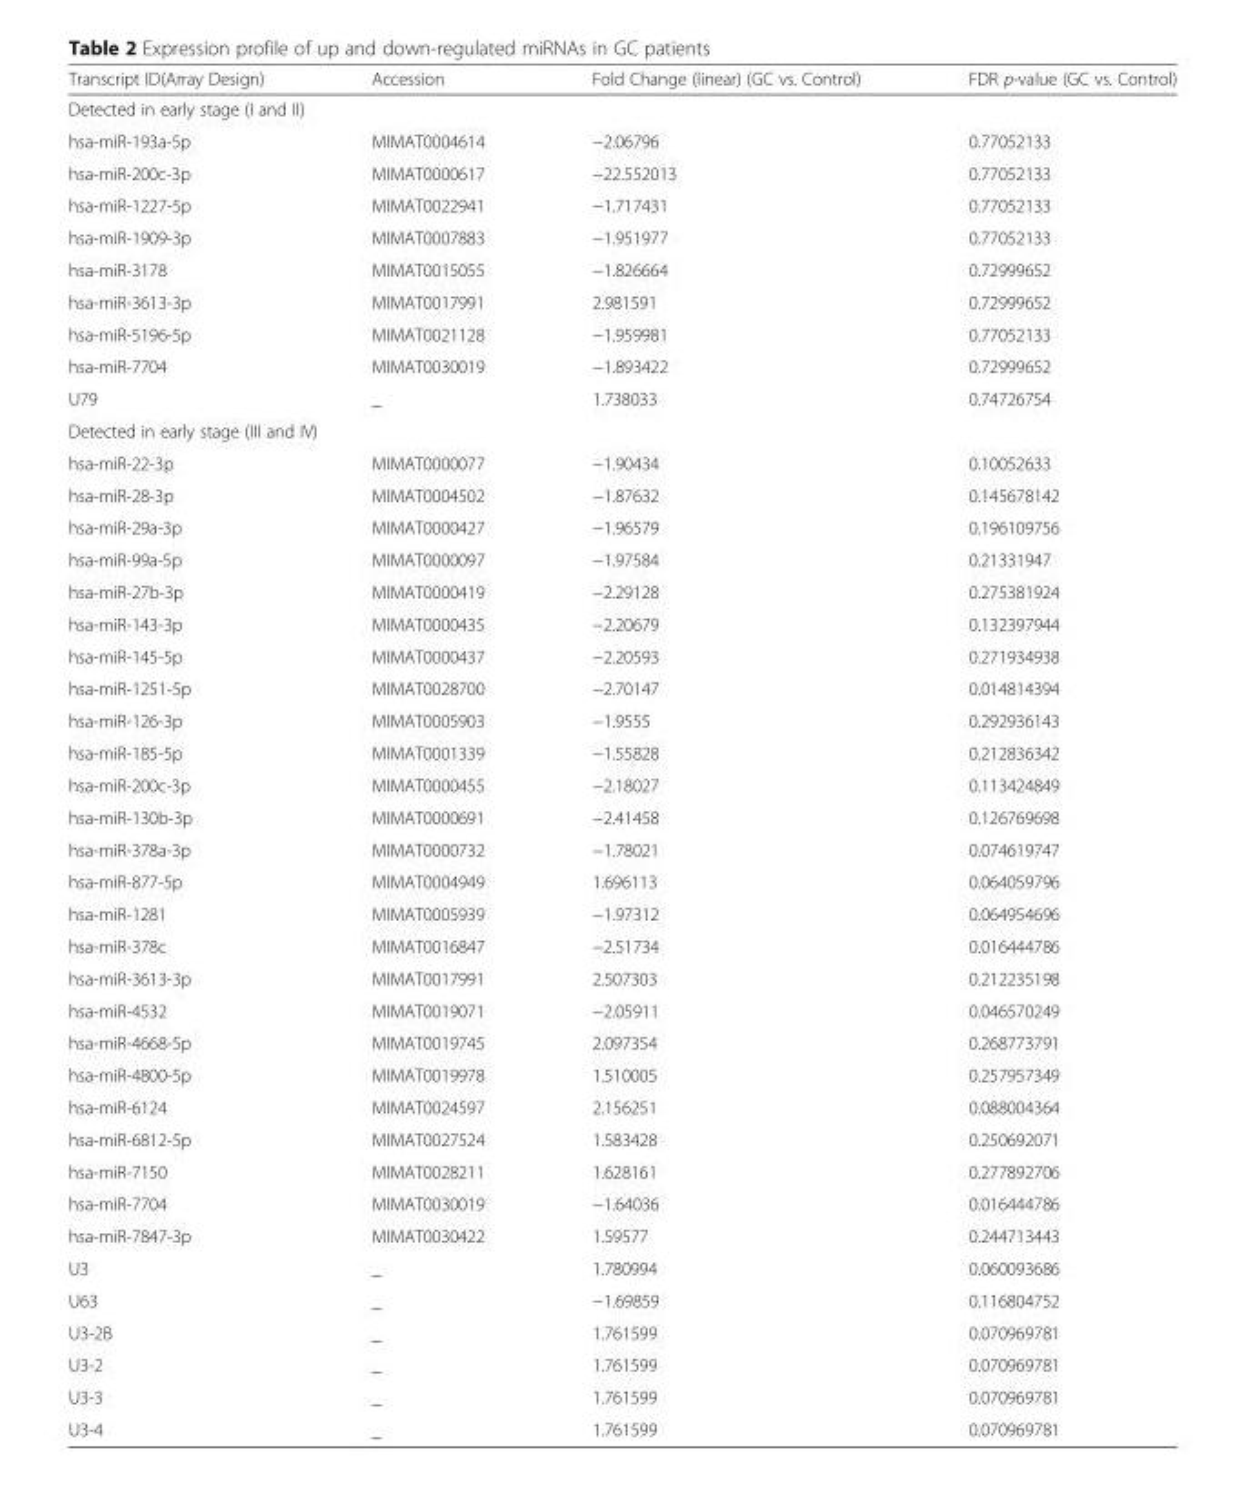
<table><thead><tr><td>Transcript ID(Array Design)</td><td>Accession</td><td>Fold Change (linear) (GC vs. Control)</td><td>FDR p-value (GC vs. Control)</td></tr></thead><tbody><tr><td colspan="4">Detected in early stage (I and II)</td></tr><tr><td>hsa-miR-193a-5p</td><td>MIMAT0004614</td><td>−2.06796</td><td>0.77052133</td></tr><tr><td>hsa-miR-200c-3p</td><td>MIMAT0000617</td><td>−22.552013</td><td>0.77052133</td></tr><tr><td>hsa-miR-1227-5p</td><td>MIMAT0022941</td><td>−1.717431</td><td>0.77052133</td></tr><tr><td>hsa-miR-1909-3p</td><td>MIMAT0007883</td><td>−1.951977</td><td>0.77052133</td></tr><tr><td>hsa-miR-3178</td><td>MIMAT0015055</td><td>−1.826664</td><td>0.72999652</td></tr><tr><td>hsa-miR-3613-3p</td><td>MIMAT0017991</td><td>2.981591</td><td>0.72999652</td></tr><tr><td>hsa-miR-5196-5p</td><td>MIMAT0021128</td><td>−1.959981</td><td>0.77052133</td></tr><tr><td>hsa-miR-7704</td><td>MIMAT0030019</td><td>−1.893422</td><td>0.72999652</td></tr><tr><td>U79</td><td>_</td><td>1.738033</td><td>0.74726754</td></tr><tr><td colspan="4">Detected in early stage (III and IV)</td></tr><tr><td>hsa-miR-22-3p</td><td>MIMAT0000077</td><td>−1.90434</td><td>0.10052633</td></tr><tr><td>hsa-miR-28-3p</td><td>MIMAT0004502</td><td>−1.87632</td><td>0.145678142</td></tr><tr><td>hsa-miR-29a-3p</td><td>MIMAT0000427</td><td>−1.96579</td><td>0.196109756</td></tr><tr><td>hsa-miR-99a-5p</td><td>MIMAT0000097</td><td>−1.97584</td><td>0.21331947</td></tr><tr><td>hsa-miR-27b-3p</td><td>MIMAT0000419</td><td>−2.29128</td><td>0.275381924</td></tr><tr><td>hsa-miR-143-3p</td><td>MIMAT0000435</td><td>−2.20679</td><td>0.132397944</td></tr><tr><td>hsa-miR-145-5p</td><td>MIMAT0000437</td><td>−2.20593</td><td>0.271934938</td></tr><tr><td>hsa-miR-1251-5p</td><td>MIMAT0028700</td><td>−2.70147</td><td>0.014814394</td></tr><tr><td>hsa-miR-126-3p</td><td>MIMAT0005903</td><td>−1.9555</td><td>0.292936143</td></tr><tr><td>hsa-miR-185-5p</td><td>MIMAT0001339</td><td>−1.55828</td><td>0.212836342</td></tr><tr><td>hsa-miR-200c-3p</td><td>MIMAT0000455</td><td>−2.18027</td><td>0.113424849</td></tr><tr><td>hsa-miR-130b-3p</td><td>MIMAT0000691</td><td>−2.41458</td><td>0.126769698</td></tr><tr><td>hsa-miR-378a-3p</td><td>MIMAT0000732</td><td>−1.78021</td><td>0.074619747</td></tr><tr><td>hsa-miR-877-5p</td><td>MIMAT0004949</td><td>1.696113</td><td>0.064059796</td></tr><tr><td>hsa-miR-1281</td><td>MIMAT0005939</td><td>−1.97312</td><td>0.064954696</td></tr><tr><td>hsa-miR-378c</td><td>MIMAT0016847</td><td>−2.51734</td><td>0.016444786</td></tr><tr><td>hsa-miR-3613-3p</td><td>MIMAT0017991</td><td>2.507303</td><td>0.212235198</td></tr><tr><td>hsa-miR-4532</td><td>MIMAT0019071</td><td>−2.05911</td><td>0.046570249</td></tr><tr><td>hsa-miR-4668-5p</td><td>MIMAT0019745</td><td>2.097354</td><td>0.268773791</td></tr><tr><td>hsa-miR-4800-5p</td><td>MIMAT0019978</td><td>1.510005</td><td>0.257957349</td></tr><tr><td>hsa-miR-6124</td><td>MIMAT0024597</td><td>2.156251</td><td>0.088004364</td></tr><tr><td>hsa-miR-6812-5p</td><td>MIMAT0027524</td><td>1.583428</td><td>0.250692071</td></tr><tr><td>hsa-miR-7150</td><td>MIMAT0028211</td><td>1.628161</td><td>0.277892706</td></tr><tr><td>hsa-miR-7704</td><td>MIMAT0030019</td><td>−1.64036</td><td>0.016444786</td></tr><tr><td>hsa-miR-7847-3p</td><td>MIMAT0030422</td><td>1.59577</td><td>0.244713443</td></tr><tr><td>U3</td><td>_</td><td>1.780994</td><td>0.060093686</td></tr><tr><td>U63</td><td>_</td><td>−1.69859</td><td>0.116804752</td></tr><tr><td>U3-2B</td><td>_</td><td>1.761599</td><td>0.070969781</td></tr><tr><td>U3-2</td><td>_</td><td>1.761599</td><td>0.070969781</td></tr><tr><td>U3-3</td><td>_</td><td>1.761599</td><td>0.070969781</td></tr><tr><td>U3-4</td><td>_</td><td>1.761599</td><td>0.070969781</td></tr></tbody></table>